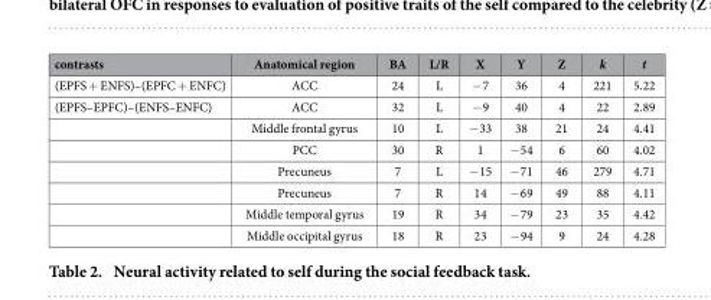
<table><thead><tr><td>contrasts</td><td>Anatomical region</td><td>BA</td><td>L/R</td><td>X</td><td>Y</td><td>Z</td><td>k</td><td>t</td></tr></thead><tbody><tr><td>(EPFS + ENFS)–(EPFC + ENFC)</td><td>ACC</td><td>24</td><td>L</td><td>− 7</td><td>36</td><td>4</td><td>221</td><td>5.22</td></tr><tr><td rowspan="7">(EPFS–EPFC)–(ENFS–ENFC)</td><td>ACC</td><td>32</td><td>L</td><td>− 9</td><td>40</td><td>4</td><td>22</td><td>2.89</td></tr><tr><td>Middle frontal gyrus</td><td>10</td><td>L</td><td>− 33</td><td>38</td><td>21</td><td>24</td><td>4.41</td></tr><tr><td>PCC</td><td>30</td><td>R</td><td>1</td><td>− 54</td><td>6</td><td>60</td><td>4.02</td></tr><tr><td>Precuneus</td><td>7</td><td>L</td><td>− 15</td><td>− 71</td><td>46</td><td>279</td><td>4.71</td></tr><tr><td>Precuneus</td><td>7</td><td>R</td><td>14</td><td>− 69</td><td>49</td><td>88</td><td>4.11</td></tr><tr><td>Middle temporal gyrus</td><td>19</td><td>R</td><td>34</td><td>− 79</td><td>23</td><td>35</td><td>4.42</td></tr><tr><td>Middle occipital gyrus</td><td>18</td><td>R</td><td>23</td><td>− 94</td><td>9</td><td>24</td><td>4.28</td></tr></tbody></table>